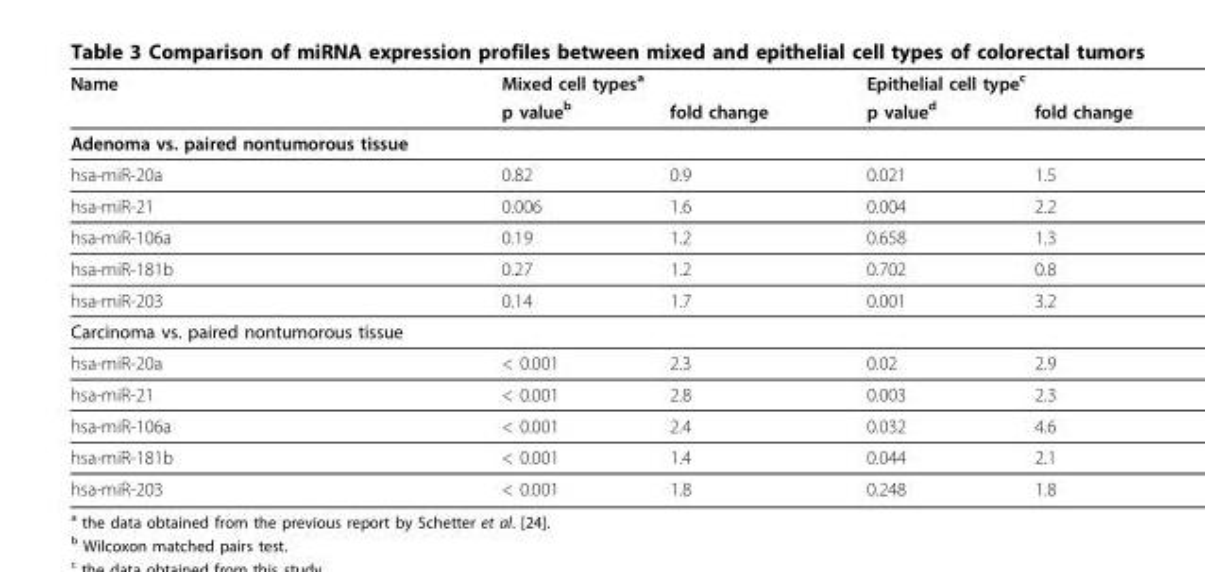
<table><thead><tr><td rowspan="2">Name</td><td colspan="2">Mixed cell types<sup>a</sup></td><td colspan="2">Epithelial cell type<sup>c</sup></td></tr><tr><td>p value<sup>b</sup></td><td>fold change</td><td>p value<sup>d</sup></td><td>fold change</td></tr></thead><tbody><tr><td colspan="5">Adenoma vs. paired nontumorous tissue</td></tr><tr><td>hsa-miR-20a</td><td>0.82</td><td>0.9</td><td>0.021</td><td>1.5</td></tr><tr><td>hsa-miR-21</td><td>0.006</td><td>1.6</td><td>0.004</td><td>2.2</td></tr><tr><td>hsa-miR-106a</td><td>0.19</td><td>1.2</td><td>0.658</td><td>1.3</td></tr><tr><td>hsa-miR-181b</td><td>0.27</td><td>1.2</td><td>0.702</td><td>0.8</td></tr><tr><td>hsa-miR-203</td><td>0.14</td><td>1.7</td><td>0.001</td><td>3.2</td></tr><tr><td colspan="5">Carcinoma vs. paired nontumorous tissue</td></tr><tr><td>hsa-miR-20a</td><td>&lt; 0.001</td><td>2.3</td><td>0.02</td><td>2.9</td></tr><tr><td>hsa-miR-21</td><td>&lt; 0.001</td><td>2.8</td><td>0.003</td><td>2.3</td></tr><tr><td>hsa-miR-106a</td><td>&lt; 0.001</td><td>2.4</td><td>0.032</td><td>4.6</td></tr><tr><td>hsa-miR-181b</td><td>&lt; 0.001</td><td>1.4</td><td>0.044</td><td>2.1</td></tr><tr><td>hsa-miR-203</td><td>&lt; 0.001</td><td>1.8</td><td>0.248</td><td>1.8</td></tr></tbody></table>